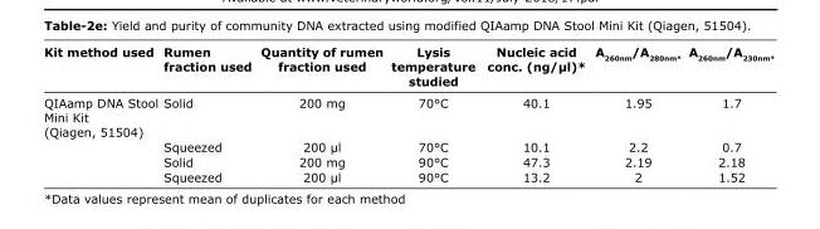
<table><thead><tr><td>Kit method used</td><td>Rumen fraction used</td><td>Quantity of rumen fraction used</td><td>Lysis temperature studied</td><td>Nucleic acid conc. (ng/µl)*</td><td>A<sub>260nm</sub>/A<sub>280nm*</sub></td><td>A<sub>260nm</sub>/A<sub>230nm*</sub></td></tr></thead><tbody><tr><td rowspan="4">QIAamp DNA Stool Mini Kit (Qiagen, 51504)</td><td>Solid</td><td>200 mg</td><td>70°C</td><td>40.1</td><td>1.95</td><td>1.7</td></tr><tr><td>Squeezed</td><td>200 µl</td><td>70°C</td><td>10.1</td><td>2.2</td><td>0.7</td></tr><tr><td>Solid</td><td>200 mg</td><td>90°C</td><td>47.3</td><td>2.19</td><td>2.18</td></tr><tr><td>Squeezed</td><td>200 µl</td><td>90°C</td><td>13.2</td><td>2</td><td>1.52</td></tr></tbody></table>